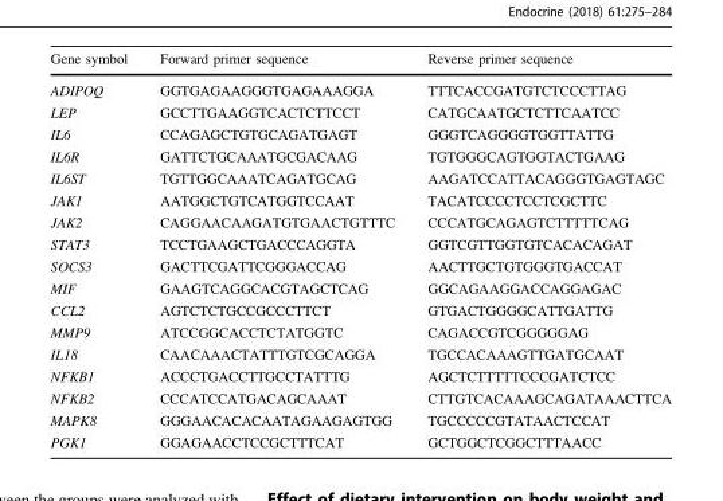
<table><thead><tr><td>Gene symbol</td><td>Forward primer sequence</td><td>Reverse primer sequence</td></tr></thead><tbody><tr><td>ADIPOQ</td><td>GGTGAGAAGGGTGAGAAAGGA</td><td>TTTCACCGATGTCTCCCTTAG</td></tr><tr><td>LEP</td><td>GCCTTGAAGGTCACTCTTCCT</td><td>CATGCAATGCTCTTCAATCC</td></tr><tr><td>IL6</td><td>CCAGAGCTGTGCAGATGAGT</td><td>GGGTCAGGGGTGGTTATTG</td></tr><tr><td>IL6R</td><td>GATTCTGCAAATGCGACAAG</td><td>TGTGGGCAGTGGTACTGAAG</td></tr><tr><td>IL6ST</td><td>TGTTGGCAAATCAGATGCAG</td><td>AAGATCCATTACAGGGTGAGTAGC</td></tr><tr><td>JAK1</td><td>AATGGCTGTCATGGTCCAAT</td><td>TACATCCCCTCCTCGCTTC</td></tr><tr><td>JAK2</td><td>CAGGAACAAGATGTGAACTGTTTC</td><td>CCCATGCAGAGTCTTTTTCAG</td></tr><tr><td>STAT3</td><td>TCCTGAAGCTGACCCAGGTA</td><td>GGTCGTTGGTGTCACACAGAT</td></tr><tr><td>SOCS3</td><td>GACTTCGATTCGGGACCAG</td><td>AACTTGCTGTGGGTGACCAT</td></tr><tr><td>MIF</td><td>GAAGTCAGGCACGTAGCTCAG</td><td>GGCAGAAGGACCAGGAGAC</td></tr><tr><td>CCL2</td><td>AGTCTCTGCCGCCCTTCT</td><td>GTGACTGGGGCATTGATTG</td></tr><tr><td>MMP9</td><td>ATCCGGCACCTCTATGGTC</td><td>CAGACCGTCGGGGGAG</td></tr><tr><td>IL18</td><td>CAACAAACTATTTGTCGCAGGA</td><td>TGCCACAAAGTTGATGCAAT</td></tr><tr><td>NFKB1</td><td>ACCCTGACCTTGCCTATTTG</td><td>AGCTCTTTTTCCCGATCTCC</td></tr><tr><td>NFKB2</td><td>CCCATCCATGACAGCAAAT</td><td>CTTGTCACAAAGCAGATAAACTTCA</td></tr><tr><td>MAPK8</td><td>GGGAACACACAATAGAAGAGTGG</td><td>TGCCCCCGTATAACTCCAT</td></tr><tr><td>PGK1</td><td>GGAGAACCTCCGCTTTCAT</td><td>GCTGGCTCGGCTTTAACC</td></tr></tbody></table>